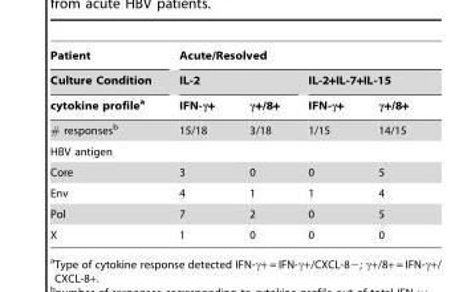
<table><thead><tr><td rowspan="3">Patient Culture Condition cytokine profile<sup>a</sup></td><td colspan="4">Acute/Resolved</td></tr><tr><td colspan="2">IL-2</td><td colspan="2">IL-2+IL-7+IL-15</td></tr><tr><td>IFN-γ+</td><td>γ+/8+</td><td>IFN-γ+</td><td>γ+/8+</td></tr></thead><tbody><tr><td># responses<sup>b</sup></td><td>15/18</td><td>3/18</td><td>1/15</td><td>14/15</td></tr><tr><td colspan="5">HBV antigen</td></tr><tr><td>Core</td><td>3</td><td>0</td><td>0</td><td>5</td></tr><tr><td>Env</td><td>4</td><td>1</td><td>1</td><td>4</td></tr><tr><td>Pol</td><td>7</td><td>2</td><td>0</td><td>5</td></tr><tr><td>X</td><td>1</td><td>0</td><td>0</td><td>0</td></tr></tbody></table>